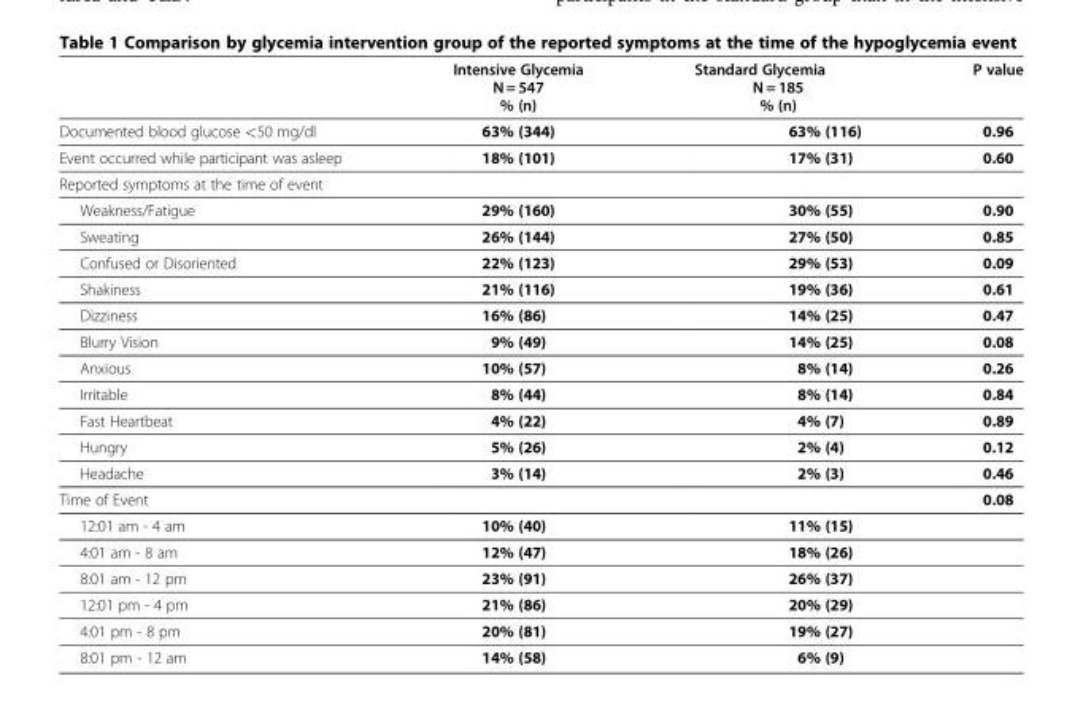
<table><thead><tr><td></td><td>Intensive Glycemia N = 547 % (n)</td><td>Standard Glycemia N = 185 % (n)</td><td>P value</td></tr></thead><tbody><tr><td>Documented blood glucose &lt;50 mg/dl</td><td>63% (344)</td><td>63% (116)</td><td>0.96</td></tr><tr><td>Event occurred while participant was asleep</td><td>18% (101)</td><td>17% (31)</td><td>0.60</td></tr><tr><td colspan="4">Reported symptoms at the time of event</td></tr><tr><td>Weakness/Fatigue</td><td>29% (160)</td><td>30% (55)</td><td>0.90</td></tr><tr><td>Sweating</td><td>26% (144)</td><td>27% (50)</td><td>0.85</td></tr><tr><td>Confused or Disoriented</td><td>22% (123)</td><td>29% (53)</td><td>0.09</td></tr><tr><td>Shakiness</td><td>21% (116)</td><td>19% (36)</td><td>0.61</td></tr><tr><td>Dizziness</td><td>16% (86)</td><td>14% (25)</td><td>0.47</td></tr><tr><td>Blurry Vision</td><td>9% (49)</td><td>14% (25)</td><td>0.08</td></tr><tr><td>Anxious</td><td>10% (57)</td><td>8% (14)</td><td>0.26</td></tr><tr><td>Irritable</td><td>8% (44)</td><td>8% (14)</td><td>0.84</td></tr><tr><td>Fast Heartbeat</td><td>4% (22)</td><td>4% (7)</td><td>0.89</td></tr><tr><td>Hungry</td><td>5% (26)</td><td>2% (4)</td><td>0.12</td></tr><tr><td>Headache</td><td>3% (14)</td><td>2% (3)</td><td>0.46</td></tr><tr><td>Time of Event</td><td></td><td></td><td>0.08</td></tr><tr><td>12:01 am - 4 am</td><td>10% (40)</td><td>11% (15)</td><td></td></tr><tr><td>4:01 am - 8 am</td><td>12% (47)</td><td>18% (26)</td><td></td></tr><tr><td>8:01 am - 12 pm</td><td>23% (91)</td><td>26% (37)</td><td></td></tr><tr><td>12:01 pm - 4 pm</td><td>21% (86)</td><td>20% (29)</td><td></td></tr><tr><td>4:01 pm - 8 pm</td><td>20% (81)</td><td>19% (27)</td><td></td></tr><tr><td>8:01 pm - 12 am</td><td>14% (58)</td><td>6% (9)</td><td></td></tr></tbody></table>